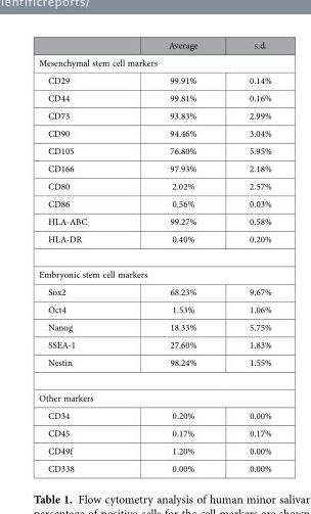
<table><thead><tr><td></td><td>Average</td><td>s.d.</td></tr></thead><tbody><tr><td colspan="3">Mesenchymal stem cell markers</td></tr><tr><td>CD29</td><td>99.91%</td><td>0.14%</td></tr><tr><td>CD44</td><td>99.81%</td><td>0.16%</td></tr><tr><td>CD73</td><td>93.83%</td><td>2.99%</td></tr><tr><td>CD90</td><td>94.46%</td><td>3.04%</td></tr><tr><td>CD105</td><td>76.80%</td><td>5.95%</td></tr><tr><td>CD166</td><td>97.93%</td><td>2.18%</td></tr><tr><td>CD80</td><td>2.02%</td><td>2.57%</td></tr><tr><td>CD86</td><td>0.56%</td><td>0.03%</td></tr><tr><td>HLA-ABC</td><td>99.27%</td><td>0.58%</td></tr><tr><td>HLA-DR</td><td>0.40%</td><td>0.20%</td></tr><tr><td colspan="3">Embryonic stem cell markers</td></tr><tr><td>Sox2</td><td>68.23%</td><td>9.67%</td></tr><tr><td>Oct4</td><td>1.53%</td><td>1.06%</td></tr><tr><td>Nanog</td><td>18.33%</td><td>5.75%</td></tr><tr><td>SSEA-1</td><td>27.60%</td><td>1.83%</td></tr><tr><td>Nestin</td><td>98.24%</td><td>1.55%</td></tr><tr><td colspan="3">Other markers</td></tr><tr><td>CD34</td><td>0.20%</td><td>0.00%</td></tr><tr><td>CD45</td><td>0.17%</td><td>0.17%</td></tr><tr><td>CD49f</td><td>1.20%</td><td>0.00%</td></tr><tr><td>CD338</td><td>0.00%</td><td>0.00%</td></tr></tbody></table>